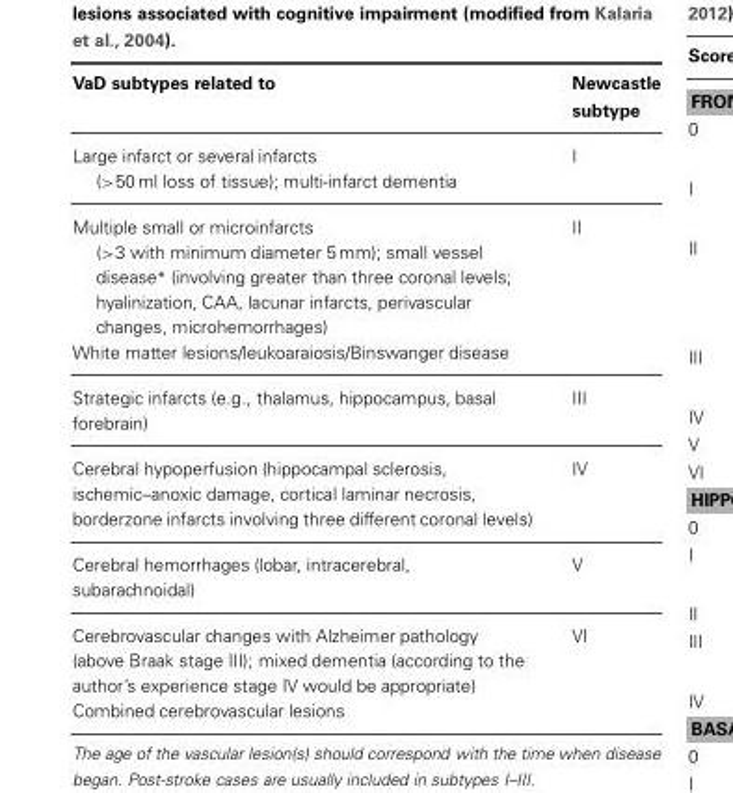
<table><thead><tr><td>VaD subtypes related to</td><td>Newcastle subtype</td></tr></thead><tbody><tr><td>Large infarct or several infarcts (&gt;50 ml loss of tissue); multi-infarct dementia</td><td>I</td></tr><tr><td>Multiple small or microinfarcts (&gt;3 with minimum diameter 5 mm); small vessel disease* (involving greater than three coronal levels; hyalinization, CAA, lacunar infarcts, perivascular changes, microhemorrhages)</td><td>II</td></tr><tr><td colspan="2">White matter lesions/leukoaraiosis/Binswanger disease</td></tr><tr><td>Strategic infarcts (e.g., thalamus, hippocampus, basal forebrain)</td><td>III</td></tr><tr><td>Cerebral hypoperfusion (hippocampal sclerosis, ischemic–anoxic damage, cortical laminar necrosis, borderzone infarcts involving three different coronal levels)</td><td>IV</td></tr><tr><td>Cerebral hemorrhages (lobar, intracerebral, subarachnoidal)</td><td>V</td></tr><tr><td>Cerebrovascular changes with Alzheimer pathology (above Braak stage III); mixed dementia (according to the author’s experience stage IV would be appropriate)</td><td>VI</td></tr><tr><td>Combined cerebrovascular lesions</td><td></td></tr></tbody></table>